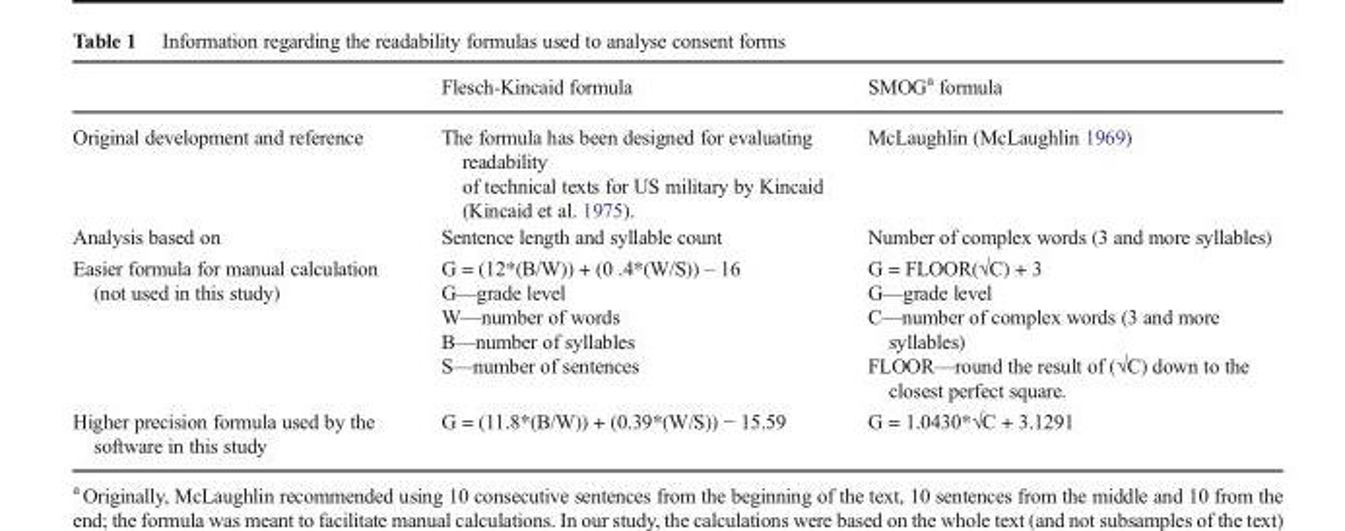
<table><thead><tr><td></td><td>Flesch-Kincaid formula</td><td>SMOG<sup>a</sup> formula</td></tr></thead><tbody><tr><td>Original development and reference</td><td>The formula has been designed for evaluating readability of technical texts for US military by Kincaid (Kincaid et al. 1975).</td><td>McLaughlin (McLaughlin 1969)</td></tr><tr><td>Analysis based on</td><td>Sentence length and syllable count</td><td>Number of complex words (3 and more syllables)</td></tr><tr><td>Easier formula for manual calculation (not used in this study)</td><td>G = (12*(B/W)) + (0 .4*(W/S)) – 16 G—grade level W—number of words B—number of syllables S—number of sentences</td><td>G = FLOOR(√C) + 3 G—grade level C—number of complex words (3 and more syllables) FLOOR—round the result of (√C) down to the closest perfect square.</td></tr><tr><td>Higher precision formula used by the software in this study</td><td>G = (11.8*(B/W)) + (0.39*(W/S)) − 15.59</td><td>G = 1.0430*√C + 3.1291</td></tr></tbody></table>